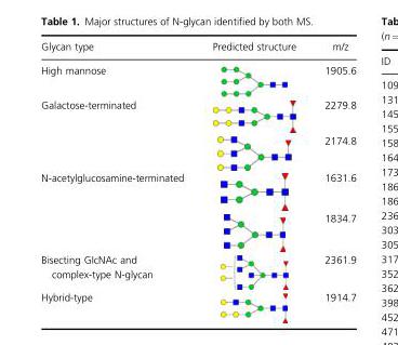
<table><thead><tr><td>Glycan type</td><td>Predicted structure</td><td>m/z</td></tr></thead><tbody><tr><td>High mannose</td><td></td><td>1905.6</td></tr><tr><td rowspan="2">Galactose-terminated</td><td></td><td>2279.8</td></tr><tr><td></td><td>2174.8</td></tr><tr><td rowspan="2">N-acetylglucosamine-terminated</td><td></td><td>1631.6</td></tr><tr><td></td><td>1834.7</td></tr><tr><td>Bisecting GIcNAc and complex-type N-glycan</td><td></td><td>2361.9</td></tr><tr><td>Hybrid-type</td><td></td><td>1914.7</td></tr></tbody></table>